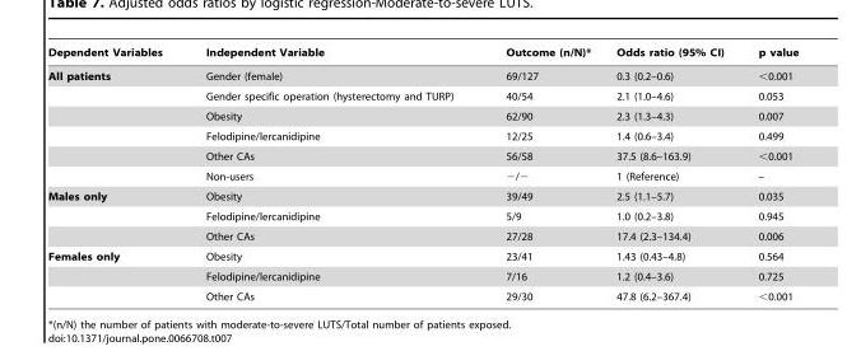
<table><thead><tr><td>Dependent Variables</td><td>Independent Variable</td><td>Outcome (n/N)*</td><td>Odds ratio (95% CI)</td><td>p value</td></tr></thead><tbody><tr><td rowspan="6">All patients</td><td>Gender (female)</td><td>69/127</td><td>0.3 (0.2–0.6)</td><td>&lt;0.001</td></tr><tr><td>Gender specific operation (hysterectomy and TURP)</td><td>40/54</td><td>2.1 (1.0–4.6)</td><td>0.053</td></tr><tr><td>Obesity</td><td>62/90</td><td>2.3 (1.3–4.3)</td><td>0.007</td></tr><tr><td>Felodipine/lercanidipine</td><td>12/25</td><td>1.4 (0.6–3.4)</td><td>0.499</td></tr><tr><td>Other CAs</td><td>56/58</td><td>37.5 (8.6–163.9)</td><td>&lt;0.001</td></tr><tr><td>Non-users</td><td>−/−</td><td>1 (Reference)</td><td>–</td></tr><tr><td rowspan="3">Males only</td><td>Obesity</td><td>39/49</td><td>2.5 (1.1–5.7)</td><td>0.035</td></tr><tr><td>Felodipine/lercanidipine</td><td>5/9</td><td>1.0 (0.2–3.8)</td><td>0.945</td></tr><tr><td>Other CAs</td><td>27/28</td><td>17.4 (2.3–134.4)</td><td>0.006</td></tr><tr><td rowspan="3">Females only</td><td>Obesity</td><td>23/41</td><td>1.43 (0.43–4.8)</td><td>0.564</td></tr><tr><td>Felodipine/lercanidipine</td><td>7/16</td><td>1.2 (0.4–3.6)</td><td>0.725</td></tr><tr><td>Other CAs</td><td>29/30</td><td>47.8 (6.2–367.4)</td><td>&lt;0.001</td></tr></tbody></table>